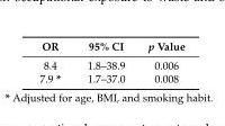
<table><thead><tr><td>OR</td><td>95% CI</td><td>p Value</td></tr></thead><tbody><tr><td>8.4</td><td>1.8–38.9</td><td>0.006</td></tr><tr><td>7.9 *</td><td>1.7–37.0</td><td>0.008</td></tr></tbody></table>